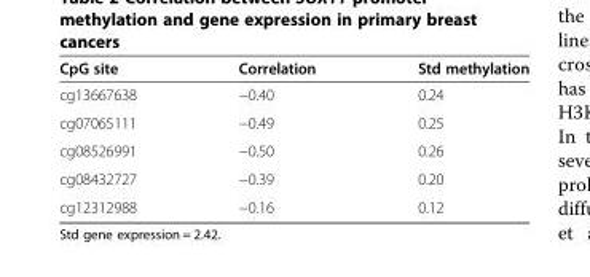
<table><thead><tr><td>CpG site</td><td>Correlation</td><td>Std methylation</td></tr></thead><tbody><tr><td>cg13667638</td><td>−0.40</td><td>0.24</td></tr><tr><td>cg07065111</td><td>−0.49</td><td>0.25</td></tr><tr><td>cg08526991</td><td>−0.50</td><td>0.26</td></tr><tr><td>cg08432727</td><td>−0.39</td><td>0.20</td></tr><tr><td>cg12312988</td><td>−0.16</td><td>0.12</td></tr></tbody></table>